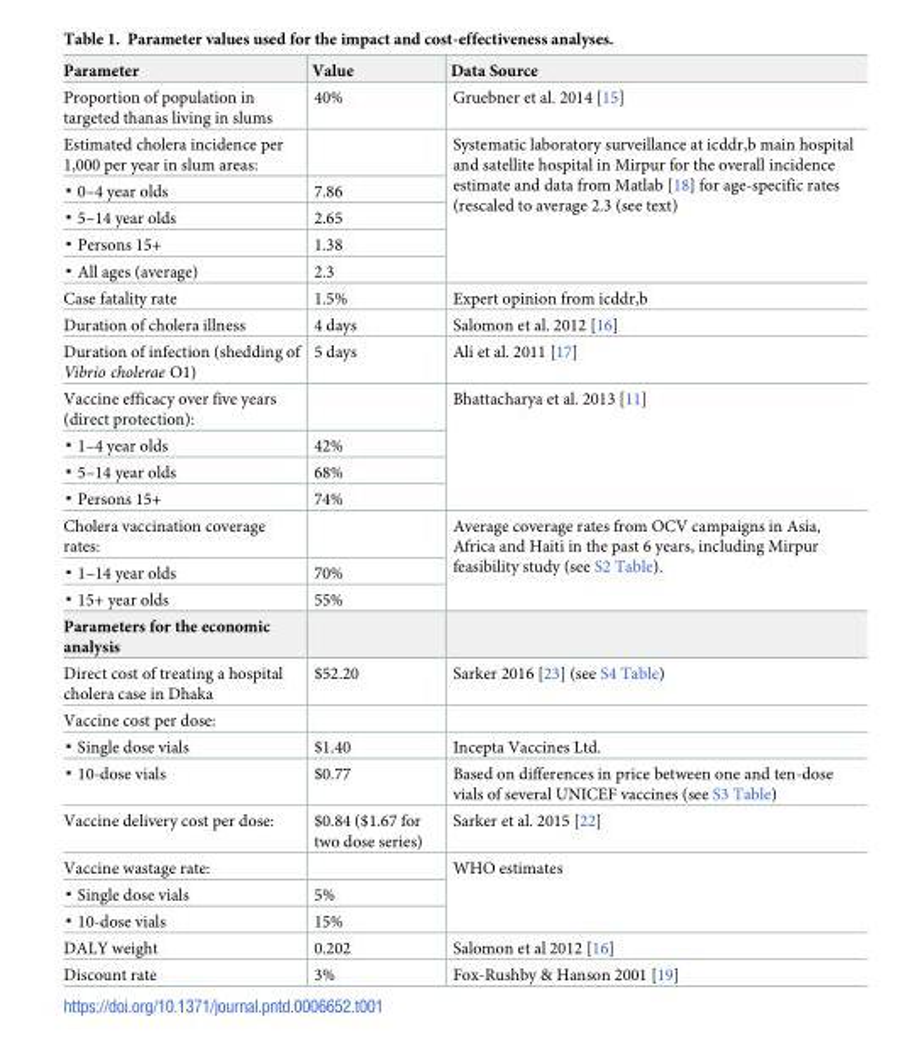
<table><thead><tr><td>Parameter</td><td>Value</td><td>Data Source</td></tr></thead><tbody><tr><td>Proportion of population in targeted thanas living in slums</td><td>40%</td><td>Gruebner et al. 2014 [15]</td></tr><tr><td colspan="2">Estimated cholera incidence per 1,000 per year in slum areas:</td><td rowspan="5">Systematic laboratory surveillance at icddr,b main hospital and satellite hospital in Mirpur for the overall incidence estimate and data from Matlab [18] for age-specific rates (rescaled to average 2.3 (see text)</td></tr><tr><td>▪ 0–4 year olds</td><td>7.86</td></tr><tr><td>▪ 5–14 year olds</td><td>2.65</td></tr><tr><td>▪ Persons 15+</td><td>1.38</td></tr><tr><td>▪ All ages (average)</td><td>2.3</td></tr><tr><td>Case fatality rate</td><td>1.5%</td><td>Expert opinion from icddr,b</td></tr><tr><td>Duration of cholera illness</td><td>4 days</td><td>Salomon et al. 2012 [16]</td></tr><tr><td>Duration of infection (shedding of Vibrio cholerae O1)</td><td>5 days</td><td>Ali et al. 2011 [17]</td></tr><tr><td colspan="2">Vaccine efficacy over five years (direct protection):</td><td rowspan="4">Bhattacharya et al. 2013 [11]</td></tr><tr><td>▪ 1–4 year olds</td><td>42%</td></tr><tr><td>▪ 5–14 year olds</td><td>68%</td></tr><tr><td>▪ Persons 15+</td><td>74%</td></tr><tr><td colspan="2">Cholera vaccination coverage rates:</td><td rowspan="3">Average coverage rates from OCV campaigns in Asia, Africa and Haiti in the past 6 years, including Mirpur feasibility study (see S2 Table).</td></tr><tr><td>▪ 1–14 year olds</td><td>70%</td></tr><tr><td>▪ 15+ year olds</td><td>55%</td></tr><tr><td colspan="3">Parameters for the economic analysis</td></tr><tr><td>Direct cost of treating a hospital cholera case in Dhaka</td><td>$52.20</td><td>Sarker 2016 [23] (see S4 Table)</td></tr><tr><td colspan="3">Vaccine cost per dose:</td></tr><tr><td>▪ Single dose vials</td><td>$1.40</td><td>Incepta Vaccines Ltd.</td></tr><tr><td>▪ 10-dose vials</td><td>$0.77</td><td>Based on differences in price between one and ten-dose vials of several UNICEF vaccines (see S3 Table)</td></tr><tr><td>Vaccine delivery cost per dose:</td><td>$0.84 ($1.67 for two dose series)</td><td>Sarker et al. 2015 [22]</td></tr><tr><td colspan="2">Vaccine wastage rate:</td><td rowspan="3">WHO estimates</td></tr><tr><td>▪ Single dose vials</td><td>5%</td></tr><tr><td>▪ 10-dose vials</td><td>15%</td></tr><tr><td>DALY weight</td><td>0.202</td><td>Salomon et al 2012 [16]</td></tr><tr><td>Discount rate</td><td>3%</td><td>Fox-Rushby &amp; Hanson 2001 [19]</td></tr></tbody></table>